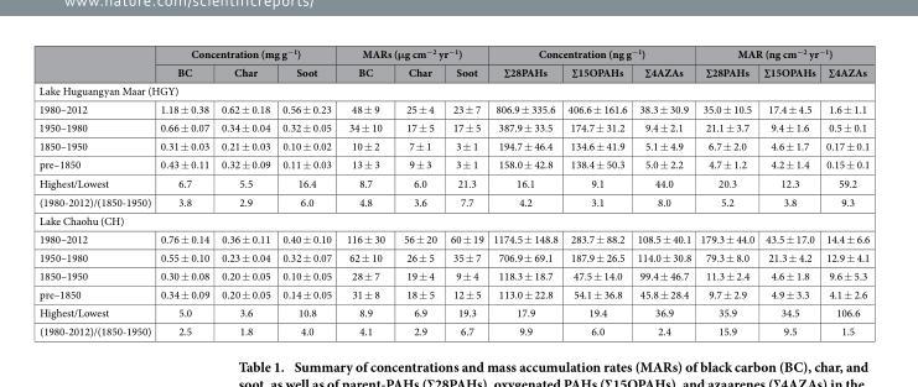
<table><thead><tr><td rowspan="2"></td><td colspan="3">Concentration (mg g<sup>−1</sup>)</td><td colspan="3">MARs (μg cm<sup>−2</sup> yr<sup>−1</sup>)</td><td colspan="3">Concentration (ng g<sup>−1</sup>)</td><td colspan="3">MAR (ng cm<sup>−2</sup> yr<sup>−1</sup>)</td></tr><tr><td>BC</td><td>Char</td><td>Soot</td><td>BC</td><td>Char</td><td>Soot</td><td>∑28PAHs</td><td>∑15OPAHs</td><td>∑4AZAs</td><td>∑28PAHs</td><td>∑15OPAHs</td><td>∑4AZAs</td></tr></thead><tbody><tr><td colspan="13">Lake Huguangyan Maar (HGY)</td></tr><tr><td>1980–2012</td><td>1.18 ± 0.38</td><td>0.62 ± 0.18</td><td>0.56 ± 0.23</td><td>48 ± 9</td><td>25 ± 4</td><td>23 ± 7</td><td>806.9 ± 335.6</td><td>406.6 ± 161.6</td><td>38.3 ± 30.9</td><td>35.0 ± 10.5</td><td>17.4 ± 4.5</td><td>1.6 ± 1.1</td></tr><tr><td>1950–1980</td><td>0.66 ± 0.07</td><td>0.34 ± 0.04</td><td>0.32 ± 0.05</td><td>34 ± 10</td><td>17 ± 5</td><td>17 ± 5</td><td>387.9 ± 33.5</td><td>174.7 ± 31.2</td><td>9.4 ± 2.1</td><td>21.1 ± 3.7</td><td>9.4 ± 1.6</td><td>0.5 ± 0.1</td></tr><tr><td>1850–1950</td><td>0.31 ± 0.03</td><td>0.21 ± 0.03</td><td>0.10 ± 0.02</td><td>10 ± 2</td><td>7 ± 1</td><td>3 ± 1</td><td>194.7 ± 46.4</td><td>134.6 ± 41.9</td><td>5.1 ± 4.9</td><td>6.7 ± 2.0</td><td>4.6 ± 1.7</td><td>0.17 ± 0.1</td></tr><tr><td>pre–1850</td><td>0.43 ± 0.11</td><td>0.32 ± 0.09</td><td>0.11 ± 0.03</td><td>13 ± 3</td><td>9 ± 3</td><td>3 ± 1</td><td>158.0 ± 42.8</td><td>138.4 ± 50.3</td><td>5.0 ± 2.2</td><td>4.7 ± 1.2</td><td>4.2 ± 1.4</td><td>0.15 ± 0.1</td></tr><tr><td>Highest/Lowest</td><td>6.7</td><td>5.5</td><td>16.4</td><td>8.7</td><td>6.0</td><td>21.3</td><td>16.1</td><td>9.1</td><td>44.0</td><td>20.3</td><td>12.3</td><td>59.2</td></tr><tr><td>(1980-2012)/(1850-1950)</td><td>3.8</td><td>2.9</td><td>6.0</td><td>4.8</td><td>3.6</td><td>7.7</td><td>4.2</td><td>3.1</td><td>8.0</td><td>5.2</td><td>3.8</td><td>9.3</td></tr><tr><td colspan="13">Lake Chaohu (CH)</td></tr><tr><td>1980–2012</td><td>0.76 ± 0.14</td><td>0.36 ± 0.11</td><td>0.40 ± 0.10</td><td>116 ± 30</td><td>56 ± 20</td><td>60 ± 19</td><td>1174.5 ± 148.8</td><td>283.7 ± 88.2</td><td>108.5 ± 40.1</td><td>179.3 ± 44.0</td><td>43.5 ± 17.0</td><td>14.4 ± 6.6</td></tr><tr><td>1950–1980</td><td>0.55 ± 0.10</td><td>0.23 ± 0.04</td><td>0.32 ± 0.07</td><td>62 ± 10</td><td>26 ± 5</td><td>35 ± 7</td><td>706.9 ± 69.1</td><td>187.9 ± 26.5</td><td>114.0 ± 30.8</td><td>79.3 ± 8.0</td><td>21.3 ± 4.2</td><td>12.9 ± 4.1</td></tr><tr><td>1850–1950</td><td>0.30 ± 0.08</td><td>0.20 ± 0.05</td><td>0.10 ± 0.05</td><td>28 ± 7</td><td>19 ± 4</td><td>9 ± 4</td><td>118.3 ± 18.7</td><td>47.5 ± 14.0</td><td>99.4 ± 46.7</td><td>11.3 ± 2.4</td><td>4.6 ± 1.8</td><td>9.6 ± 5.3</td></tr><tr><td>pre–1850</td><td>0.34 ± 0.09</td><td>0.20 ± 0.05</td><td>0.14 ± 0.05</td><td>31 ± 8</td><td>18 ± 5</td><td>12 ± 5</td><td>113.0 ± 22.8</td><td>54.1 ± 36.8</td><td>45.8 ± 28.4</td><td>9.7 ± 2.9</td><td>4.9 ± 3.3</td><td>4.1 ± 2.6</td></tr><tr><td>Highest/Lowest</td><td>5.0</td><td>3.6</td><td>10.8</td><td>8.9</td><td>6.9</td><td>19.3</td><td>17.9</td><td>19.4</td><td>36.9</td><td>35.9</td><td>34.5</td><td>106.6</td></tr><tr><td>(1980-2012)/(1850-1950)</td><td>2.5</td><td>1.8</td><td>4.0</td><td>4.1</td><td>2.9</td><td>6.7</td><td>9.9</td><td>6.0</td><td>2.4</td><td>15.9</td><td>9.5</td><td>1.5</td></tr></tbody></table>